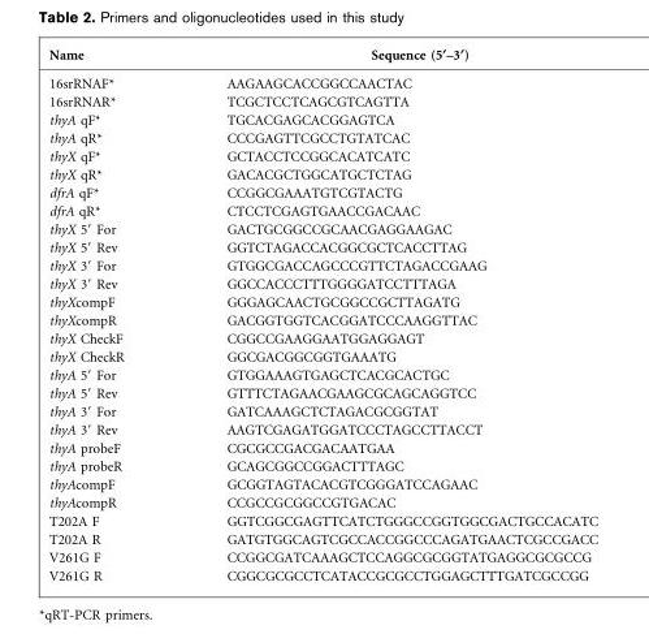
<table><thead><tr><td>Name</td><td>Sequence (5§–3§)</td></tr></thead><tbody><tr><td>16srRNAF*</td><td>AAGAAGCACCGGCCAACTAC</td></tr><tr><td>16srRNAR*</td><td>TCGCTCCTCAGCGTCAGTTA</td></tr><tr><td>thyA qF*</td><td>TGCACGAGCACGGAGTCA</td></tr><tr><td>thyA qR*</td><td>CCCGAGTTCGCCTGTATCAC</td></tr><tr><td>thyX qF*</td><td>GCTACCTCCGGCACATCATC</td></tr><tr><td>thyX qR*</td><td>GACACGCTGGCATGCTCTAG</td></tr><tr><td>dfrA qF*</td><td>CCGGCGAAATGTCGTACTG</td></tr><tr><td>dfrA qR*</td><td>CTCCTCGAGTGAACCGACAAC</td></tr><tr><td>thyX 5′ For</td><td>GACTGCGGCCGCAACGAGGAAGAC</td></tr><tr><td>thyX 5′ Rev</td><td>GGTCTAGACCACGGCGCTCACCTTAG</td></tr><tr><td>thyX 3′ For</td><td>GTGGCGACCAGCCCGTTCTAGACCGAAG</td></tr><tr><td>thyX 3′ Rev</td><td>GGCCACCCTTTGGGGATCCTTTAGA</td></tr><tr><td>thyXcompF</td><td>GGGAGCAACTGCGGCCGCTTAGATG</td></tr><tr><td>thyXcompR</td><td>GACGGTGGTCACGGATCCCAAGGTTAC</td></tr><tr><td>thyX CheckF</td><td>CGGCCGAAGGAATGGAGGAGT</td></tr><tr><td>thyX CheckR</td><td>GGCGACGGCGGTGAAATG</td></tr><tr><td>thyA 5′ For</td><td>GTGGAAAGTGAGCTCACGCACTGC</td></tr><tr><td>thyA 5′ Rev</td><td>GTTTCTAGAACGAAGCGCAGCAGGTCC</td></tr><tr><td>thyA 3′ For</td><td>GATCAAAGCTCTAGACGCGGTAT</td></tr><tr><td>thyA 3′ Rev</td><td>AAGTCGAGATGGATCCCTAGCCTTACCT</td></tr><tr><td>thyA probeF</td><td>CGCGCCGACGACAATGAA</td></tr><tr><td>thyA probeR</td><td>GCAGCGGCCGGACTTTAGC</td></tr><tr><td>thyAcompF</td><td>GCGGTAGTACACGTCGGGATCCAGAAC</td></tr><tr><td>thyAcompR</td><td>CCGCCGCGGCCGTGACAC</td></tr><tr><td>T202A F</td><td>GGTCGGCGAGTTCATCTGGGCCGGTGGCGACTGCCACATC</td></tr><tr><td>T202A R</td><td>GATGTGGCAGTCGCCACCGGCCCAGATGAACTCGCCGACC</td></tr><tr><td>V261G F</td><td>CCGGCGATCAAAGCTCCAGGCGCGGTATGAGGCGCGCCG</td></tr><tr><td>V261G R</td><td>CGGCGCGCCTCATACCGCGCCTGGAGCTTTGATCGCCGG</td></tr></tbody></table>